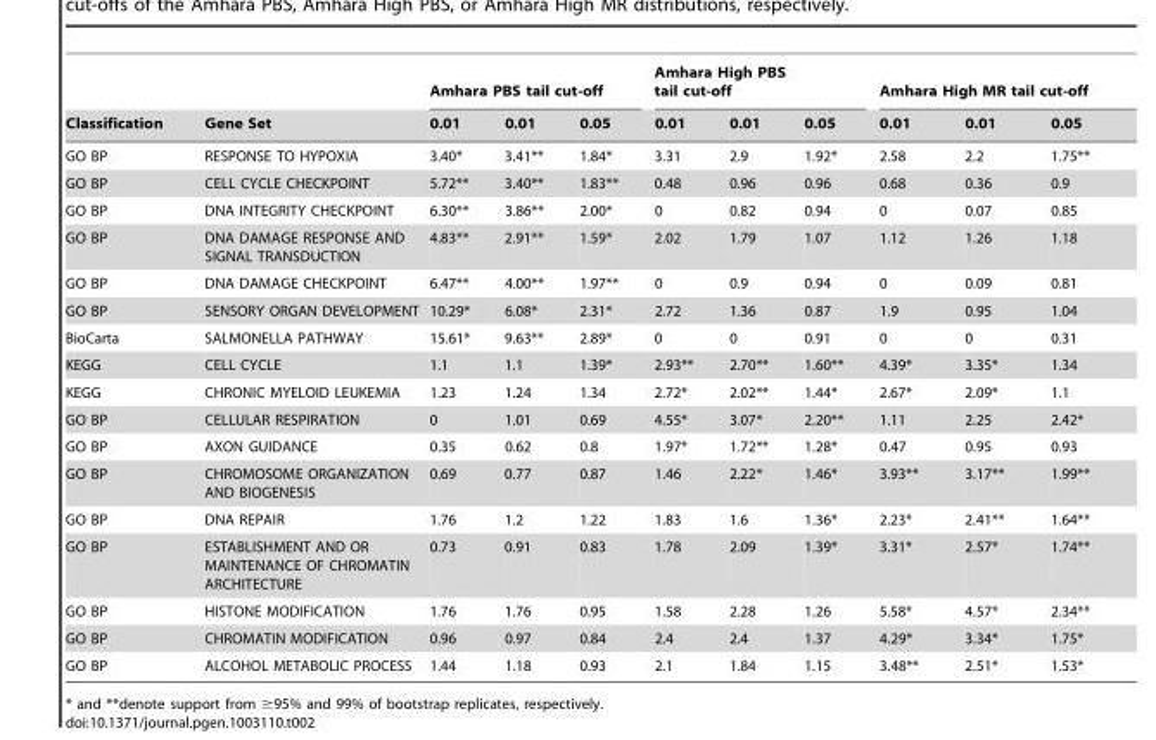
<table><thead><tr><td rowspan="2">Classification</td><td rowspan="2">Gene Set</td><td colspan="3">Amhara PBS tail cut-off</td><td colspan="3">Amhara High PBS tail cut-off</td><td colspan="3">Amhara High MR tail cut-off</td></tr><tr><td>0.01</td><td>0.01</td><td>0.05</td><td>0.01</td><td>0.01</td><td>0.05</td><td>0.01</td><td>0.01</td><td>0.05</td></tr></thead><tbody><tr><td>GO BP</td><td>RESPONSE TO HYPOXIA</td><td>3.40*</td><td>3.41**</td><td>1.84*</td><td>3.31</td><td>2.9</td><td>1.92*</td><td>2.58</td><td>2.2</td><td>1.75**</td></tr><tr><td>GO BP</td><td>CELL CYCLE CHECKPOINT</td><td>5.72**</td><td>3.40**</td><td>1.83**</td><td>0.48</td><td>0.96</td><td>0.96</td><td>0.68</td><td>0.36</td><td>0.9</td></tr><tr><td>GO BP</td><td>DNA INTEGRITY CHECKPOINT</td><td>6.30**</td><td>3.86**</td><td>2.00*</td><td>0</td><td>0.82</td><td>0.94</td><td>0</td><td>0.07</td><td>0.85</td></tr><tr><td>GO BP</td><td>DNA DAMAGE RESPONSE AND SIGNAL TRANSDUCTION</td><td>4.83**</td><td>2.91**</td><td>1.59*</td><td>2.02</td><td>1.79</td><td>1.07</td><td>1.12</td><td>1.26</td><td>1.18</td></tr><tr><td>GO BP</td><td>DNA DAMAGE CHECKPOINT</td><td>6.47**</td><td>4.00**</td><td>1.97**</td><td>0</td><td>0.9</td><td>0.94</td><td>0</td><td>0.09</td><td>0.81</td></tr><tr><td>GO BP</td><td>SENSORY ORGAN DEVELOPMENT</td><td>10.29*</td><td>6.08*</td><td>2.31*</td><td>2.72</td><td>1.36</td><td>0.87</td><td>1.9</td><td>0.95</td><td>1.04</td></tr><tr><td>BioCarta</td><td>SALMONELLA PATHWAY</td><td>15.61*</td><td>9.63**</td><td>2.89*</td><td>0</td><td>0</td><td>0.91</td><td>0</td><td>0</td><td>0.31</td></tr><tr><td>KEGG</td><td>CELL CYCLE</td><td>1.1</td><td>1.1</td><td>1.39*</td><td>2.93**</td><td>2.70**</td><td>1.60**</td><td>4.39*</td><td>3.35*</td><td>1.34</td></tr><tr><td>KEGG</td><td>CHRONIC MYELOID LEUKEMIA</td><td>1.23</td><td>1.24</td><td>1.34</td><td>2.72*</td><td>2.02**</td><td>1.44*</td><td>2.67*</td><td>2.09*</td><td>1.1</td></tr><tr><td>GO BP</td><td>CELLULAR RESPIRATION</td><td>0</td><td>1.01</td><td>0.69</td><td>4.55*</td><td>3.07*</td><td>2.20**</td><td>1.11</td><td>2.25</td><td>2.42*</td></tr><tr><td>GO BP</td><td>AXON GUIDANCE</td><td>0.35</td><td>0.62</td><td>0.8</td><td>1.97*</td><td>1.72**</td><td>1.28*</td><td>0.47</td><td>0.95</td><td>0.93</td></tr><tr><td>GO BP</td><td>CHROMOSOME ORGANIZATION AND BIOGENESIS</td><td>0.69</td><td>0.77</td><td>0.87</td><td>1.46</td><td>2.22*</td><td>1.46*</td><td>3.93**</td><td>3.17**</td><td>1.99**</td></tr><tr><td>GO BP</td><td>DNA REPAIR</td><td>1.76</td><td>1.2</td><td>1.22</td><td>1.83</td><td>1.6</td><td>1.36*</td><td>2.23*</td><td>2.41**</td><td>1.64**</td></tr><tr><td>GO BP</td><td>ESTABLISHMENT AND OR MAINTENANCE OF CHROMATIN ARCHITECTURE</td><td>0.73</td><td>0.91</td><td>0.83</td><td>1.78</td><td>2.09</td><td>1.39*</td><td>3.31*</td><td>2.57*</td><td>1.74**</td></tr><tr><td>GO BP</td><td>HISTONE MODIFICATION</td><td>1.76</td><td>1.76</td><td>0.95</td><td>1.58</td><td>2.28</td><td>1.26</td><td>5.58*</td><td>4.57*</td><td>2.34**</td></tr><tr><td>GO BP</td><td>CHROMATIN MODIFICATION</td><td>0.96</td><td>0.97</td><td>0.84</td><td>2.4</td><td>2.4</td><td>1.37</td><td>4.29*</td><td>3.34*</td><td>1.75*</td></tr><tr><td>GO BP</td><td>ALCOHOL METABOLIC PROCESS</td><td>1.44</td><td>1.18</td><td>0.93</td><td>2.1</td><td>1.84</td><td>1.15</td><td>3.48**</td><td>2.51*</td><td>1.53*</td></tr></tbody></table>